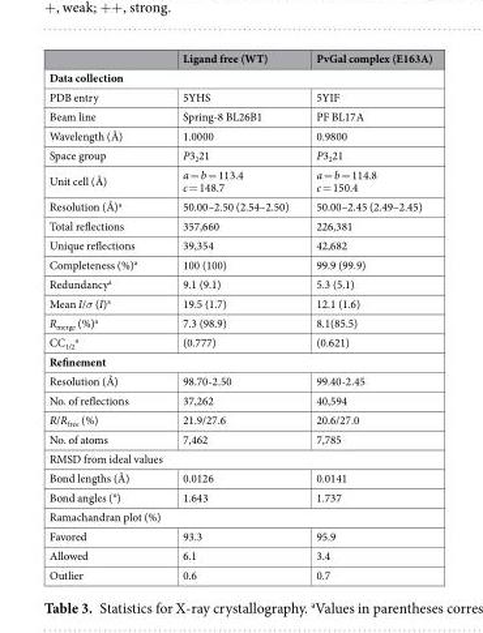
<table><thead><tr><td></td><td>Ligand free (WT)</td><td>PvGal complex (E163A)</td></tr></thead><tbody><tr><td colspan="3">Data collection</td></tr><tr><td>PDB entry</td><td>5YHS</td><td>5YIF</td></tr><tr><td>Beam line</td><td>Spring-8 BL26B1</td><td>PF BL17A</td></tr><tr><td>Wavelength (Å)</td><td>1.0000</td><td>0.9800</td></tr><tr><td>Space group</td><td>P3<sub>2</sub>21</td><td>P3<sub>2</sub>21</td></tr><tr><td>Unit cell (Å)</td><td>a = b = 113.4 c = 148.7</td><td>a = b = 114.8 c = 150.4</td></tr><tr><td>Resolution (Å)<sup>a</sup></td><td>50.00–2.50 (2.54–2.50)</td><td>50.00–2.45 (2.49–2.45)</td></tr><tr><td>Total reflections</td><td>357,660</td><td>226,381</td></tr><tr><td>Unique reflections</td><td>39,354</td><td>42,682</td></tr><tr><td>Completeness (%)<sup>a</sup></td><td>100 (100)</td><td>99.9 (99.9)</td></tr><tr><td>Redundancy<sup>a</sup></td><td>9.1 (9.1)</td><td>5.3 (5.1)</td></tr><tr><td>Mean I/σ (I)<sup>a</sup></td><td>19.5 (1.7)</td><td>12.1 (1.6)</td></tr><tr><td>R<sub>merge</sub> (%)<sup>a</sup></td><td>7.3 (98.9)</td><td>8.1(85.5)</td></tr><tr><td>CC<sub>1/2</sub> <sup>a</sup></td><td>(0.777)</td><td>(0.621)</td></tr><tr><td colspan="3">Refinement</td></tr><tr><td>Resolution (Å)</td><td>98.70-2.50</td><td>99.40-2.45</td></tr><tr><td>No. of reflections</td><td>37,262</td><td>40,594</td></tr><tr><td>R/R<sub>free</sub> (%)</td><td>21.9/27.6</td><td>20.6/27.0</td></tr><tr><td>No. of atoms</td><td>7,462</td><td>7,785</td></tr><tr><td colspan="3">RMSD from ideal values</td></tr><tr><td>Bond lengths (Å)</td><td>0.0126</td><td>0.0141</td></tr><tr><td>Bond angles (°)</td><td>1.643</td><td>1.737</td></tr><tr><td colspan="3">Ramachandran plot (%)</td></tr><tr><td>Favored</td><td>93.3</td><td>95.9</td></tr><tr><td>Allowed</td><td>6.1</td><td>3.4</td></tr><tr><td>Outlier</td><td>0.6</td><td>0.7</td></tr></tbody></table>